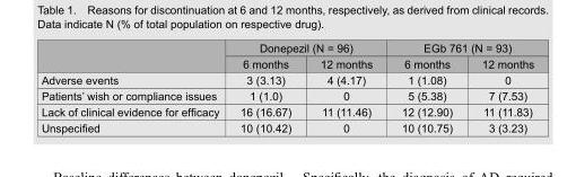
<table><thead><tr><td rowspan="2"></td><td colspan="2">Donepezil (N = 96)</td><td colspan="2">EGb 761 (N = 93)</td></tr><tr><td>6 months</td><td>12 months</td><td>6 months</td><td>12 months</td></tr></thead><tbody><tr><td>Adverse events</td><td>3 (3.13)</td><td>4 (4.17)</td><td>1 (1.08)</td><td>0</td></tr><tr><td>Patients’ wish or compliance issues</td><td>1 (1.0)</td><td>0</td><td>5 (5.38)</td><td>7 (7.53)</td></tr><tr><td>Lack of clinical evidence for efficacy</td><td>16 (16.67)</td><td>11 (11.46)</td><td>12 (12.90)</td><td>11 (11.83)</td></tr><tr><td>Unspecified</td><td>10 (10.42)</td><td>0</td><td>10 (10.75)</td><td>3 (3.23)</td></tr></tbody></table>